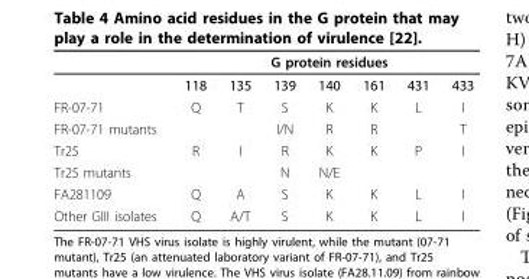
<table><thead><tr><td rowspan="2"></td><td colspan="7">G protein residues</td></tr><tr><td>118</td><td>135</td><td>139</td><td>140</td><td>161</td><td>431</td><td>433</td></tr></thead><tbody><tr><td>FR-07-71</td><td>Q</td><td>T</td><td>S</td><td>K</td><td>K</td><td>L</td><td>I</td></tr><tr><td>FR-07-71 mutants</td><td></td><td></td><td>I/N</td><td>R</td><td>R</td><td></td><td>T</td></tr><tr><td>Tr25</td><td>R</td><td>I</td><td>R</td><td>K</td><td>K</td><td>P</td><td>I</td></tr><tr><td>Tr25 mutants</td><td></td><td></td><td>N</td><td>N/E</td><td></td><td></td><td></td></tr><tr><td>FA281109</td><td>Q</td><td>A</td><td>S</td><td>K</td><td>K</td><td>L</td><td>I</td></tr><tr><td>Other GIII isolates</td><td>Q</td><td>A/T</td><td>S</td><td>K</td><td>K</td><td>L</td><td>I</td></tr></tbody></table>